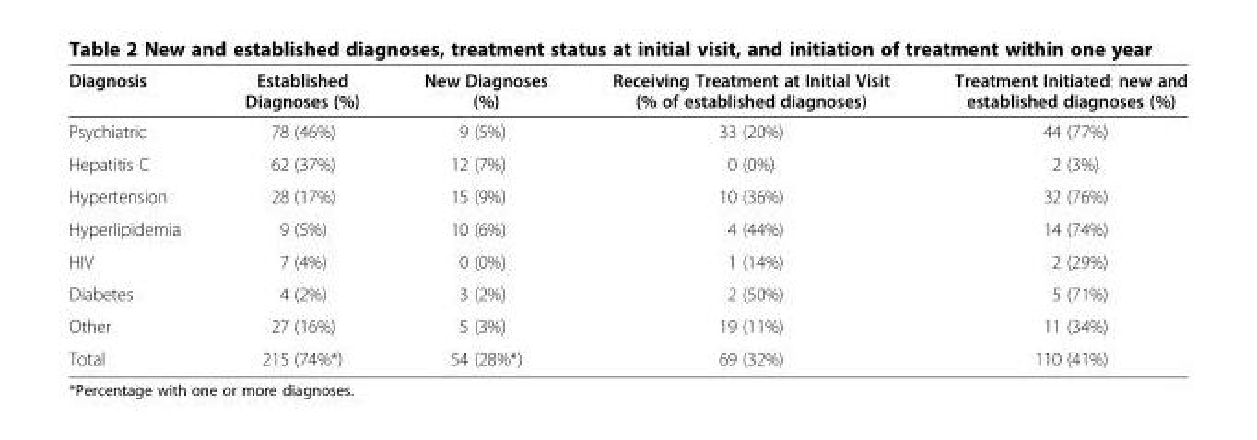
<table><thead><tr><td>Diagnosis</td><td>Established Diagnoses (%)</td><td>New Diagnoses (%)</td><td>Receiving Treatment at Initial Visit (% of established diagnoses)</td><td>Treatment Initiated: new and established diagnoses (%)</td></tr></thead><tbody><tr><td>Psychiatric</td><td>78 (46%)</td><td>9 (5%)</td><td>33 (20%)</td><td>44 (77%)</td></tr><tr><td>Hepatitis C</td><td>62 (37%)</td><td>12 (7%)</td><td>0 (0%)</td><td>2 (3%)</td></tr><tr><td>Hypertension</td><td>28 (17%)</td><td>15 (9%)</td><td>10 (36%)</td><td>32 (76%)</td></tr><tr><td>Hyperlipidemia</td><td>9 (5%)</td><td>10 (6%)</td><td>4 (44%)</td><td>14 (74%)</td></tr><tr><td>HIV</td><td>7 (4%)</td><td>0 (0%)</td><td>1 (14%)</td><td>2 (29%)</td></tr><tr><td>Diabetes</td><td>4 (2%)</td><td>3 (2%)</td><td>2 (50%)</td><td>5 (71%)</td></tr><tr><td>Other</td><td>27 (16%)</td><td>5 (3%)</td><td>19 (11%)</td><td>11 (34%)</td></tr><tr><td>Total</td><td>215 (74%*)</td><td>54 (28%*)</td><td>69 (32%)</td><td>110 (41%)</td></tr></tbody></table>